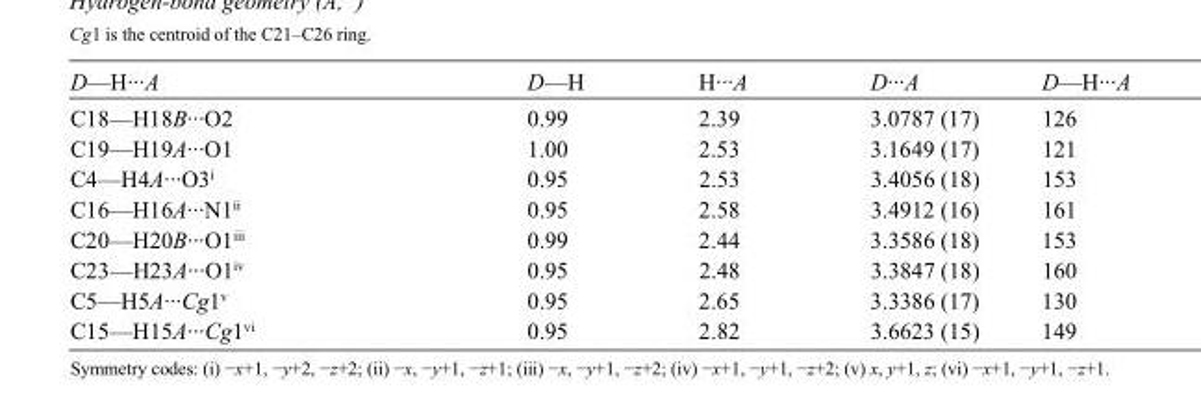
<table><tbody><tr><td>D—H···A</td><td>D—H</td><td>H···A</td><td>D···A</td><td>D—H···A</td></tr><tr><td>C18—H18B···O2</td><td>0.99</td><td>2.39</td><td>3.0787 (17)</td><td>126</td></tr><tr><td>C19—H19A···O1</td><td>1.00</td><td>2.53</td><td>3.1649 (17)</td><td>121</td></tr><tr><td>C4—H4A···O3<sup>i</sup></td><td>0.95</td><td>2.53</td><td>3.4056 (18)</td><td>153</td></tr><tr><td>C16—H16A···N1<sup>ii</sup></td><td>0.95</td><td>2.58</td><td>3.4912 (16)</td><td>161</td></tr><tr><td>C20—H20B···O1<sup>iii</sup></td><td>0.99</td><td>2.44</td><td>3.3586 (18)</td><td>153</td></tr><tr><td>C23—H23A···O1<sup>iv</sup></td><td>0.95</td><td>2.48</td><td>3.3847 (18)</td><td>160</td></tr><tr><td>C5—H5A···Cg1<sup>v</sup></td><td>0.95</td><td>2.65</td><td>3.3386 (17)</td><td>130</td></tr><tr><td>C15—H15A···Cg1<sup>vi</sup></td><td>0.95</td><td>2.82</td><td>3.6623 (15)</td><td>149</td></tr></tbody></table>